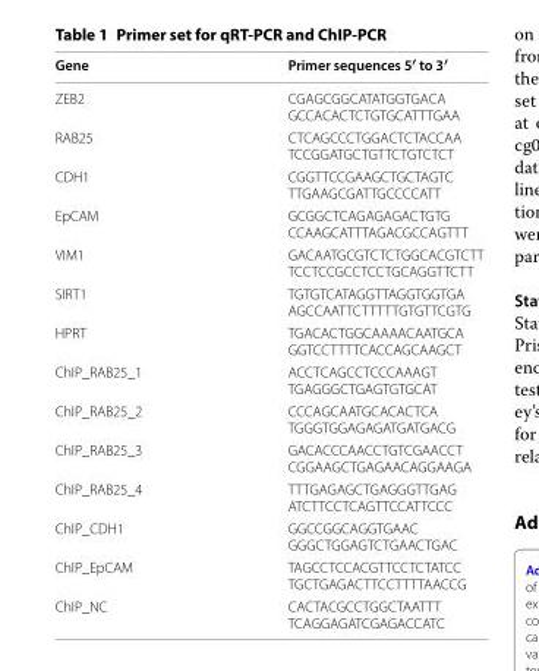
<table><thead><tr><td>Gene</td><td>Primer sequences 5′ to 3′</td></tr></thead><tbody><tr><td>ZEB2</td><td>CGA GCG GCA TAT GGT GAC A GCC ACA CTC TGT GCA TTT GAA</td></tr><tr><td>RAB25</td><td>CTC AGC CCT GGA CTC TAC CAA TCC GGA TGC TGT TCT GTC TCT</td></tr><tr><td>CDH1</td><td>CGG TTC CGA AGC TGC TAG TC TTG AAG CGA TTG CCC CAT T</td></tr><tr><td>EpCAM</td><td>GCG GCT CAG AGA GAC TGT G CCA AGC ATT TAG ACG CCA GTTT</td></tr><tr><td>VIM1</td><td>GAC AAT GCG TCT CTG GCA CGT CTT TCC TCC GCC TCC TGC AGG TTCTT</td></tr><tr><td>SIRT1</td><td>TGT GTC ATA GGT TAG GTG GTGA AGC CAA TTC TTT TTG TGT TCGTG</td></tr><tr><td>HPRT</td><td>TGA CAC TGG CAA AAC AAT GCA GGT CCT TTT CAC CAG CAA GCT</td></tr><tr><td>ChIP_RAB25_1</td><td>ACC TCA GCC TCC CAA AGT TGA GGG CTG AGT GTG CAT</td></tr><tr><td>ChIP_RAB25_2</td><td>CCC AGC AAT GCA CAC TCA TGG GTG GAG AGA TGA TGA CG</td></tr><tr><td>ChIP_RAB25_3</td><td>GAC ACC CAA CCT GTC GAA CCT CGG AAG CTG AGA ACA GGA AGA</td></tr><tr><td>ChIP_RAB25_4</td><td>TTT GAG AGC TGA GGG TTG AG ATC TTC CTC AGT TCC ATT CCC</td></tr><tr><td>ChIP_CDH1</td><td>GGC CGG CAG GTG AAC GGG CTG GAG TCT GAA CTG AC</td></tr><tr><td>ChIP_EpCAM</td><td>TAG CCT CCA CGT TCC TCT ATCC TGC TGA GAC TTC CTT TTA ACCG</td></tr><tr><td>ChIP_NC</td><td>CAC TAC GCC TGG CTA ATT T</td></tr></tbody></table>